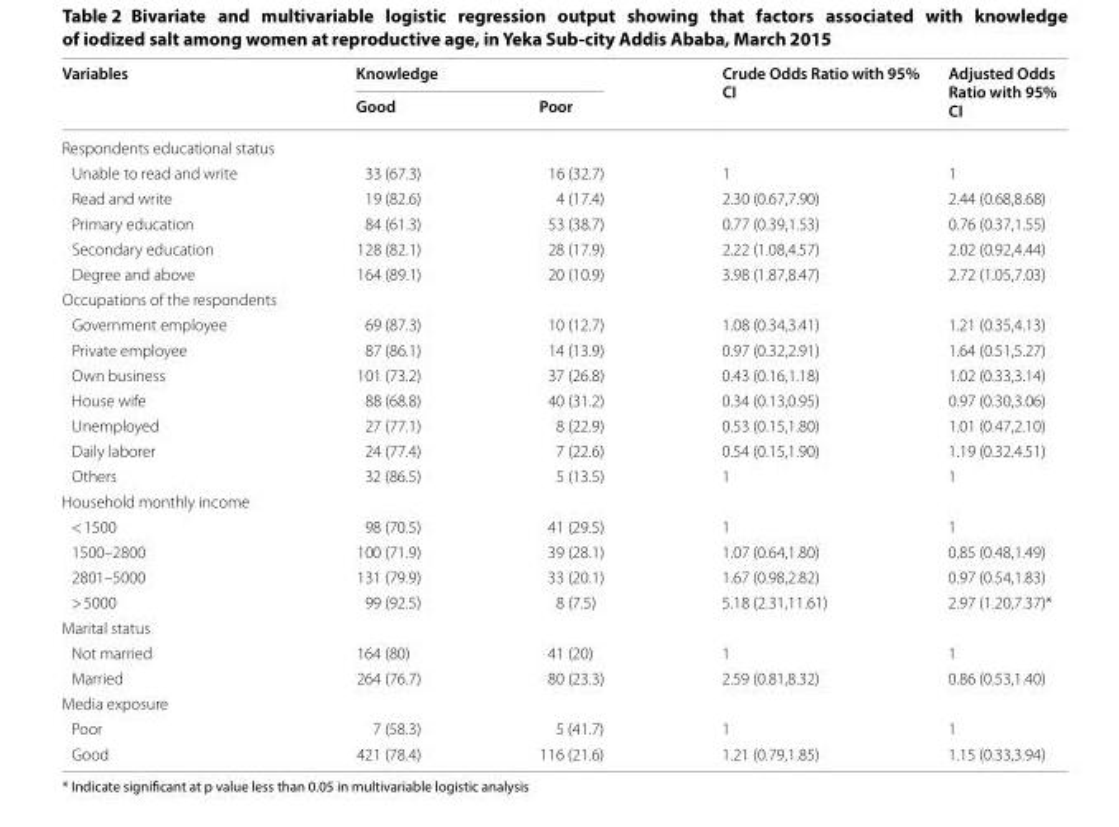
<table><thead><tr><td rowspan="2">Variables</td><td colspan="2">Knowledge</td><td rowspan="2">Crude Odds Ratio with 95% CI</td><td rowspan="2">Adjusted Odds Ratio with 95% CI</td></tr><tr><td>Good</td><td>Poor</td></tr></thead><tbody><tr><td colspan="5">Respondents educational status</td></tr><tr><td>Unable to read and write</td><td>33 (67.3)</td><td>16 (32.7)</td><td>1</td><td>1</td></tr><tr><td>Read and write</td><td>19 (82.6)</td><td>4 (17.4)</td><td>2.30 (0.67,7.90)</td><td>2.44 (0.68,8.68)</td></tr><tr><td>Primary education</td><td>84 (61.3)</td><td>53 (38.7)</td><td>0.77 (0.39,1.53)</td><td>0.76 (0.37,1.55)</td></tr><tr><td>Secondary education</td><td>128 (82.1)</td><td>28 (17.9)</td><td>2.22 (1.08,4.57)</td><td>2.02 (0.92,4.44)</td></tr><tr><td>Degree and above</td><td>164 (89.1)</td><td>20 (10.9)</td><td>3.98 (1.87,8.47)</td><td>2.72 (1.05,7.03)</td></tr><tr><td colspan="5">Occupations of the respondents</td></tr><tr><td>Government employee</td><td>69 (87.3)</td><td>10 (12.7)</td><td>1.08 (0.34,3.41)</td><td>1.21 (0.35,4.13)</td></tr><tr><td>Private employee</td><td>87 (86.1)</td><td>14 (13.9)</td><td>0.97 (0.32,2.91)</td><td>1.64 (0.51,5.27)</td></tr><tr><td>Own business</td><td>101 (73.2)</td><td>37 (26.8)</td><td>0.43 (0.16,1.18)</td><td>1.02 (0.33,3.14)</td></tr><tr><td>House wife</td><td>88 (68.8)</td><td>40 (31.2)</td><td>0.34 (0.13,0.95)</td><td>0.97 (0.30,3.06)</td></tr><tr><td>Unemployed</td><td>27 (77.1)</td><td>8 (22.9)</td><td>0.53 (0.15,1.80)</td><td>1.01 (0.47,2.10)</td></tr><tr><td>Daily laborer</td><td>24 (77.4)</td><td>7 (22.6)</td><td>0.54 (0.15,1.90)</td><td>1.19 (0.32.4.51)</td></tr><tr><td>Others</td><td>32 (86.5)</td><td>5 (13.5)</td><td>1</td><td>1</td></tr><tr><td colspan="5">Household monthly income</td></tr><tr><td>&lt; 1500</td><td>98 (70.5)</td><td>41 (29.5)</td><td>1</td><td>1</td></tr><tr><td>1500–2800</td><td>100 (71.9)</td><td>39 (28.1)</td><td>1.07 (0.64,1.80)</td><td>0.85 (0.48,1.49)</td></tr><tr><td>2801–5000</td><td>131 (79.9)</td><td>33 (20.1)</td><td>1.67 (0.98,2.82)</td><td>0.97 (0.54,1.83)</td></tr><tr><td>&gt; 5000</td><td>99 (92.5)</td><td>8 (7.5)</td><td>5.18 (2.31,11.61)</td><td>2.97 (1.20,7.37)*</td></tr><tr><td colspan="5">Marital status</td></tr><tr><td>Not married</td><td>164 (80)</td><td>41 (20)</td><td>1</td><td>1</td></tr><tr><td>Married</td><td>264 (76.7)</td><td>80 (23.3)</td><td>2.59 (0.81,8.32)</td><td>0.86 (0.53,1.40)</td></tr><tr><td colspan="5">Media exposure</td></tr><tr><td>Poor</td><td>7 (58.3)</td><td>5 (41.7)</td><td>1</td><td>1</td></tr><tr><td>Good</td><td>421 (78.4)</td><td>116 (21.6)</td><td>1.21 (0.79,1.85)</td><td>1.15 (0.33,3.94)</td></tr></tbody></table>